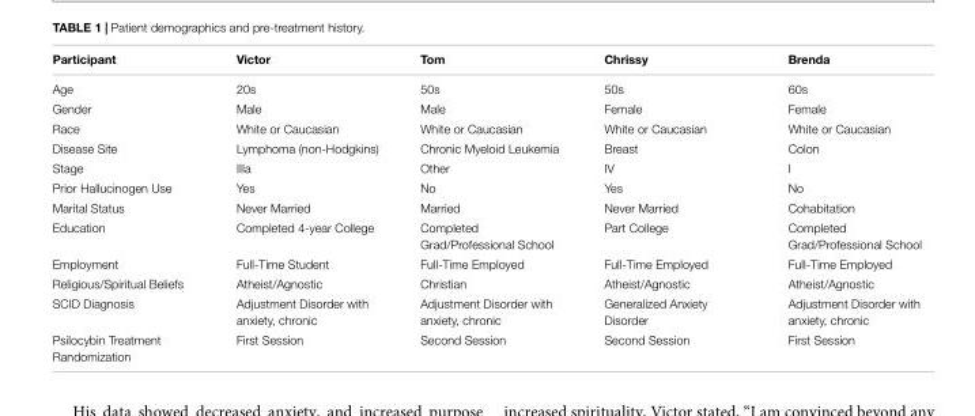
<table><thead><tr><td>Participant</td><td>Victor</td><td>Tom</td><td>Chrissy</td><td>Brenda</td></tr></thead><tbody><tr><td>Age</td><td>20s</td><td>50s</td><td>50s</td><td>60s</td></tr><tr><td>Gender</td><td>Male</td><td>Male</td><td>Female</td><td>Female</td></tr><tr><td>Race</td><td>White or Caucasian</td><td>White or Caucasian</td><td>White or Caucasian</td><td>White or Caucasian</td></tr><tr><td>Disease Site</td><td>Lymphoma (non-Hodgkins)</td><td>Chronic Myeloid Leukemia</td><td>Breast</td><td>Colon</td></tr><tr><td>Stage</td><td>IIIa</td><td>Other</td><td>IV</td><td>I</td></tr><tr><td>Prior Hallucinogen Use</td><td>Yes</td><td>No</td><td>Yes</td><td>No</td></tr><tr><td>Marital Status</td><td>Never Married</td><td>Married</td><td>Never Married</td><td>Cohabitation</td></tr><tr><td>Education</td><td>Completed 4-year College</td><td>Completed Grad/Professional School</td><td>Part College</td><td>Completed Grad/Professional School</td></tr><tr><td>Employment</td><td>Full-Time Student</td><td>Full-Time Employed</td><td>Full-Time Employed</td><td>Full-Time Employed</td></tr><tr><td>Religious/Spiritual Beliefs</td><td>Atheist/Agnostic</td><td>Christian</td><td>Atheist/Agnostic</td><td>Atheist/Agnostic</td></tr><tr><td>SCID Diagnosis</td><td>Adjustment Disorder with anxiety, chronic</td><td>Adjustment Disorder with anxiety, chronic</td><td>Generalized Anxiety Disorder</td><td>Adjustment Disorder with anxiety, chronic</td></tr><tr><td>Psilocybin Treatment Randomization</td><td>First Session</td><td>Second Session</td><td>Second Session</td><td>First Session</td></tr></tbody></table>